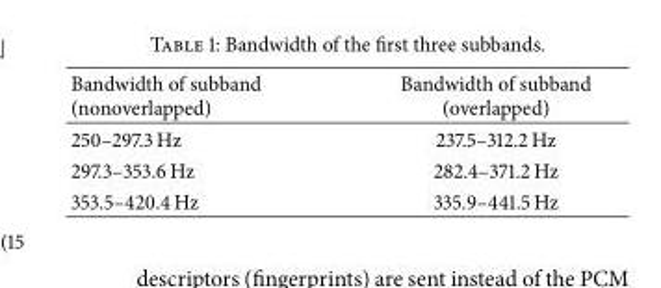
<table><thead><tr><td>Bandwidth of subband (nonoverlapped)</td><td>Bandwidth of subband (overlapped)</td></tr></thead><tbody><tr><td>250–297.3 Hz</td><td>237.5–312.2 Hz</td></tr><tr><td>297.3–353.6 Hz</td><td>282.4–371.2 Hz</td></tr><tr><td>353.5–420.4 Hz</td><td>335.9–441.5 Hz</td></tr></tbody></table>